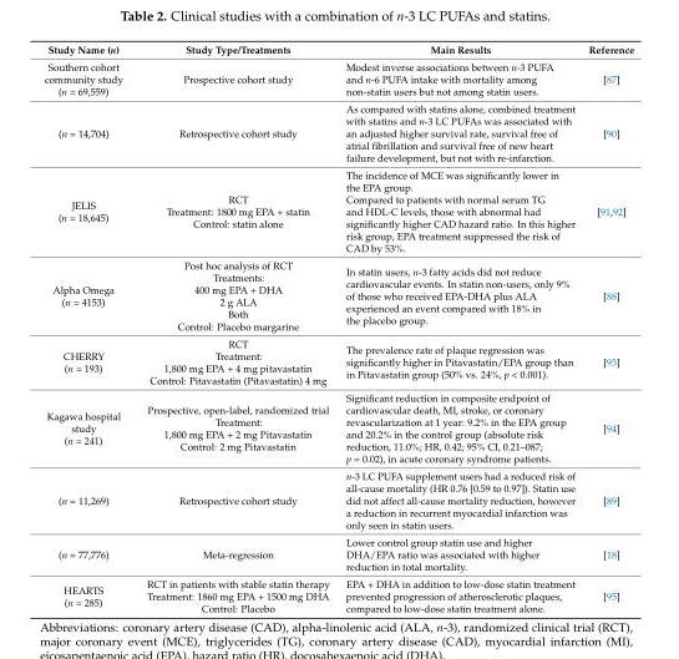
<table><thead><tr><td>Study Name (n)</td><td>Study Type/Treatments</td><td>Main Results</td><td>Reference</td></tr></thead><tbody><tr><td>Southern cohort community study (n = 69,559)</td><td>Prospective cohort study</td><td>Modest inverse associations between n-3 PUFA and n-6 PUFA intake with mortality among non-statin users but not among statin users.</td><td>[87]</td></tr><tr><td>(n = 14,704)</td><td>Retrospective cohort study</td><td>As compared with statins alone, combined treatment with statins and n-3 LC PUFAs was associated with an adjusted higher survival rate, survival free of atrial fibrillation and survival free of new heart failure development, but not with re-infarction.</td><td>[90]</td></tr><tr><td>JELIS (n = 18,645)</td><td>RCT Treatment: 1800 mg EPA + statin Control: statin alone</td><td>The incidence of MCE was significantly lower in the EPA group. Compared to patients with normal serum TG and HDL-C levels, those with abnormal had significantly higher CAD hazard ratio. In this higher risk group, EPA treatment suppressed the risk of CAD by 53%.</td><td>[91,92]</td></tr><tr><td>Alpha Omega (n = 4153)</td><td>Post hoc analysis of RCT Treatments: 400 mg EPA + DHA 2 g ALA Both Control: Placebo margarine</td><td>In statin users, n-3 fatty acids did not reduce cardiovascular events. In statin non-users, only 9% of those who received EPA-DHA plus ALA experienced an event compared with 18% in the placebo group.</td><td>[88]</td></tr><tr><td>CHERRY (n = 193)</td><td>RCT Treatment: 1,800 mg EPA + 4 mg pitavastatin Control: Pitavastatin (Pitavastatin) 4 mg</td><td>The prevalence rate of plaque regression was significantly higher in Pitavastatin/EPA group than in Pitavastatin group (50% vs. 24%, p &lt; 0.001).</td><td>[93]</td></tr><tr><td>Kagawa hospital study (n = 241)</td><td>Prospective, open-label, randomized trial Treatment: 1,800 mg EPA + 2 mg Pitavastatin Control: 2 mg Pitavastatin</td><td>Significant reduction in composite endpoint of cardiovascular death, MI, stroke, or coronary revascularization at 1 year: 9.2% in the EPA group and 20.2% in the control group (absolute risk reduction, 11.0%; HR, 0.42; 95% CI, 0.21–087; p = 0.02), in acute coronary syndrome patients.</td><td>[94]</td></tr><tr><td>(n = 11,269)</td><td>Retrospective cohort study</td><td>n-3 LC PUFA supplement users had a reduced risk of all-cause mortality (HR 0.76 [0.59 to 0.97]). Statin use did not affect all-cause mortality reduction, however a reduction in recurrent myocardial infarction was only seen in statin users.</td><td>[89]</td></tr><tr><td>(n = 77,776)</td><td>Meta-regression</td><td>Lower control group statin use and higher DHA/EPA ratio was associated with higher reduction in total mortality.</td><td>[18]</td></tr><tr><td>HEARTS (n = 285)</td><td>RCT in patients with stable statin therapy Treatment: 1860 mg EPA + 1500 mg DHA Control: Placebo</td><td>EPA + DHA in addition to low-dose statin treatment prevented progression of atherosclerotic plaques, compared to low-dose statin treatment alone.</td><td>[95]</td></tr></tbody></table>